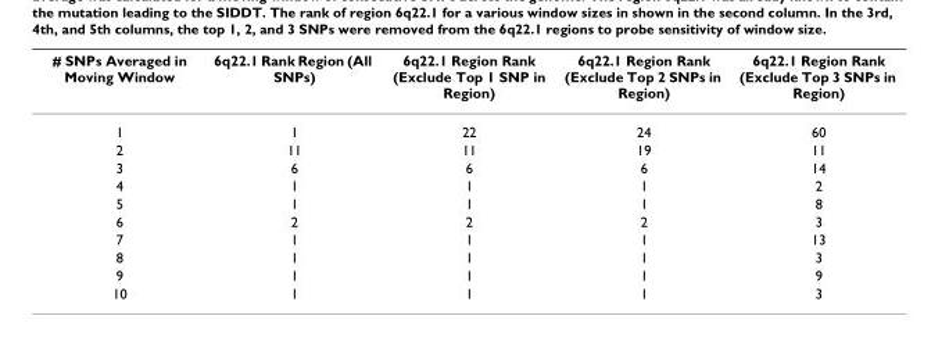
<table><thead><tr><td># SNPs Averaged in Moving Window</td><td>6q22.1 Rank Region (All SNPs)</td><td>6q22.1 Region Rank (Exclude Top 1 SNP in Region)</td><td>6q22.1 Region Rank (Exclude Top 2 SNPs in Region)</td><td>6q22.1 Region Rank (Exclude Top 3 SNPs in Region)</td></tr></thead><tbody><tr><td>1</td><td>1</td><td>22</td><td>24</td><td>60</td></tr><tr><td>2</td><td>11</td><td>11</td><td>19</td><td>11</td></tr><tr><td>3</td><td>6</td><td>6</td><td>6</td><td>14</td></tr><tr><td>4</td><td>1</td><td>1</td><td>1</td><td>2</td></tr><tr><td>5</td><td>1</td><td>1</td><td>1</td><td>8</td></tr><tr><td>6</td><td>2</td><td>2</td><td>2</td><td>3</td></tr><tr><td>7</td><td>1</td><td>1</td><td>1</td><td>13</td></tr><tr><td>8</td><td>1</td><td>1</td><td>1</td><td>3</td></tr><tr><td>9</td><td>1</td><td>1</td><td>1</td><td>9</td></tr><tr><td>10</td><td>1</td><td>1</td><td>1</td><td>3</td></tr></tbody></table>